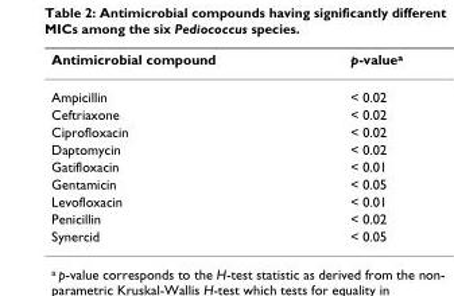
<table><thead><tr><td>Antimicrobial compound</td><td>p-value<sup>a</sup></td></tr></thead><tbody><tr><td>Ampicillin</td><td>&lt; 0.02</td></tr><tr><td>Ceftriaxone</td><td>&lt; 0.02</td></tr><tr><td>Ciprofloxacin</td><td>&lt; 0.02</td></tr><tr><td>Daptomycin</td><td>&lt; 0.02</td></tr><tr><td>Gatifloxacin</td><td>&lt; 0.01</td></tr><tr><td>Gentamicin</td><td>&lt; 0.05</td></tr><tr><td>Levofloxacin</td><td>&lt; 0.01</td></tr><tr><td>Penicillin</td><td>&lt; 0.02</td></tr><tr><td>Synercid</td><td>&lt; 0.05</td></tr></tbody></table>